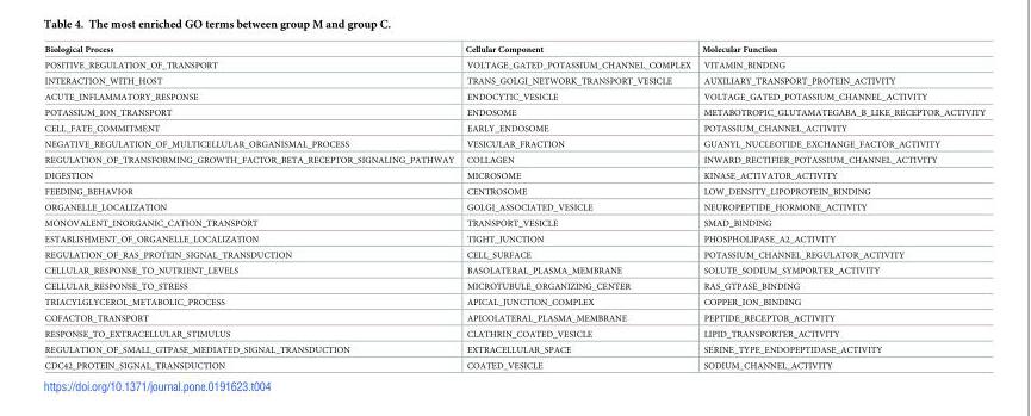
<table><thead><tr><td>Biological Process</td><td>Cellular Component</td><td>Molecular Function</td></tr></thead><tbody><tr><td>POSITIVE_REGULATION_OF_TRANSPORT</td><td>VOLTAGE_GATED_POTASSIUM_CHANNEL_COMPLEX</td><td>VITAMIN_BINDING</td></tr><tr><td>INTERACTION_WITH_HOST</td><td>TRANS_GOLGI_NETWORK_TRANSPORT_VESICLE</td><td>AUXILIARY_TRANSPORT_PROTEIN_ACTIVITY</td></tr><tr><td>ACUTE_INFLAMMATORY_RESPONSE</td><td>ENDOCYTIC_VESICLE</td><td>VOLTAGE_GATED_POTASSIUM_CHANNEL_ACTIVITY</td></tr><tr><td>POTASSIUM_ION_TRANSPORT</td><td>ENDOSOME</td><td>METABOTROPIC_GLUTAMATEGABA_B_LIKE_RECEPTOR_ACTIVITY</td></tr><tr><td>CELL_FATE_COMMITMENT</td><td>EARLY_ENDOSOME</td><td>POTASSIUM_CHANNEL_ACTIVITY</td></tr><tr><td>NEGATIVE_REGULATION_OF_MULTICELLULAR_ORGANISMAL_PROCESS</td><td>VESICULAR_FRACTION</td><td>GUANYL_NUCLEOTIDE_EXCHANGE_FACTOR_ACTIVITY</td></tr><tr><td>REGULATION_OF_TRANSFORMING_GROWTH_FACTOR_BETA_RECEPTOR_SIGNALING_PATHWAY</td><td>COLLAGEN</td><td>INWARD_RECTIFIER_POTASSIUM_CHANNEL_ACTIVITY</td></tr><tr><td>DIGESTION</td><td>MICROSOME</td><td>KINASE_ACTIVATOR_ACTIVITY</td></tr><tr><td>FEEDING_BEHAVIOR</td><td>CENTROSOME</td><td>LOW_DENSITY_LIPOPROTEIN_BINDING</td></tr><tr><td>ORGANELLE_LOCALIZATION</td><td>GOLGI_ASSOCIATED_VESICLE</td><td>NEUROPEPTIDE_HORMONE_ACTIVITY</td></tr><tr><td>MONOVALENT_INORGANIC_CATION_TRANSPORT</td><td>TRANSPORT_VESICLE</td><td>SMAD_BINDING</td></tr><tr><td>ESTABLISHMENT_OF_ORGANELLE_LOCALIZATION</td><td>TIGHT_JUNCTION</td><td>PHOSPHOLIPASE_A2_ACTIVITY</td></tr><tr><td>REGULATION_OF_RAS_PROTEIN_SIGNAL_TRANSDUCTION</td><td>CELL_SURFACE</td><td>POTASSIUM_CHANNEL_REGULATOR_ACTIVITY</td></tr><tr><td>CELLULAR_RESPONSE_TO_NUTRIENT_LEVELS</td><td>BASOLATERAL_PLASMA_MEMBRANE</td><td>SOLUTE_SODIUM_SYMPORTER_ACTIVITY</td></tr><tr><td>CELLULAR_RESPONSE_TO_STRESS</td><td>MICROTUBULE_ORGANIZING_CENTER</td><td>RAS_GTPASE_BINDING</td></tr><tr><td>TRIACYLGLYCEROL_METABOLIC_PROCESS</td><td>APICAL_JUNCTION_COMPLEX</td><td>COPPER_ION_BINDING</td></tr><tr><td>COFACTOR_TRANSPORT</td><td>APICOLATERAL_PLASMA_MEMBRANE</td><td>PEPTIDE_RECEPTOR_ACTIVITY</td></tr><tr><td>RESPONSE_TO_EXTRACELLULAR_STIMULUS</td><td>CLATHRIN_COATED_VESICLE</td><td>LIPID_TRANSPORTER_ACTIVITY</td></tr><tr><td>REGULATION_OF_SMALL_GTPASE_MEDIATED_SIGNAL_TRANSDUCTION</td><td>EXTRACELLULAR_SPACE</td><td>SERINE_TYPE_ENDOPEPTIDASE_ACTIVITY</td></tr><tr><td>CDC42_PROTEIN_SIGNAL_TRANSDUCTION</td><td>COATED_VESICLE</td><td>SODIUM_CHANNEL_ACTIVITY</td></tr></tbody></table>